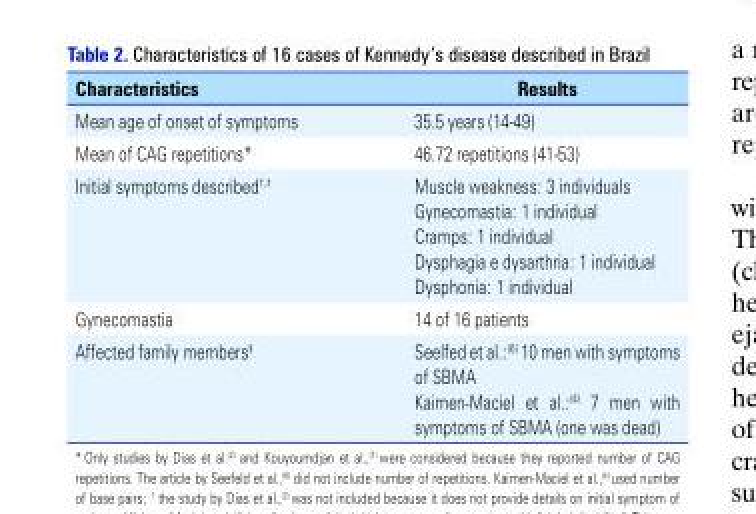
<table><thead><tr><td>Characteristics</td><td>Results</td></tr></thead><tbody><tr><td>Mean age of onset of symptoms</td><td>35.5 years (14-49)</td></tr><tr><td>Mean of CAG repetitions*</td><td>46.72 repetitions (41-53)</td></tr><tr><td>Initial symptoms described†,‡</td><td>Muscle weakness: 3 individuals Gynecomastia: 1 individual Cramps: 1 individual Dysphagia e dysarthria: 1 individual Dysphonia: 1 individual</td></tr><tr><td>Gynecomastia</td><td>14 of 16 patients</td></tr><tr><td>Affected family members§</td><td>Seelfed et al.:<sup>(6)</sup> 10 men with symptoms of SBMA Kaimen-Maciel et al.:<sup>(4)</sup> 7 men with symptoms of SBMA (one was dead)</td></tr></tbody></table>